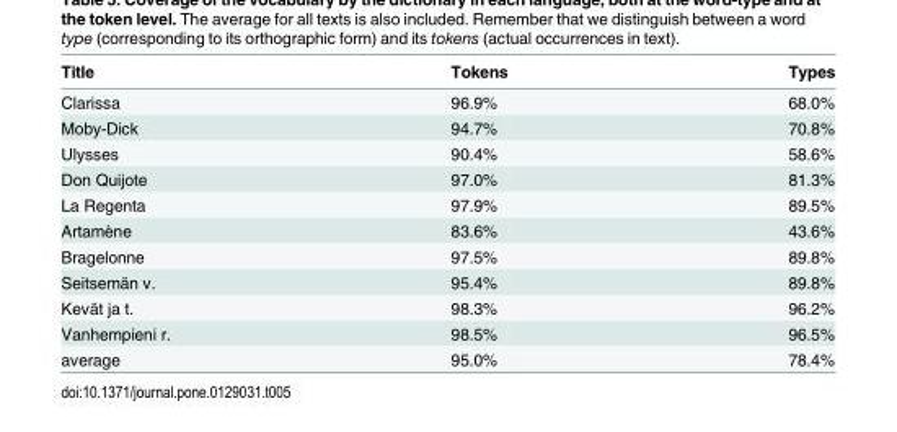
<table><thead><tr><td>Title</td><td>Tokens</td><td>Types</td></tr></thead><tbody><tr><td>Clarissa</td><td>96.9%</td><td>68.0%</td></tr><tr><td>Moby-Dick</td><td>94.7%</td><td>70.8%</td></tr><tr><td>Ulysses</td><td>90.4%</td><td>58.6%</td></tr><tr><td>Don Quijote</td><td>97.0%</td><td>81.3%</td></tr><tr><td>La Regenta</td><td>97.9%</td><td>89.5%</td></tr><tr><td>Artamène</td><td>83.6%</td><td>43.6%</td></tr><tr><td>Bragelonne</td><td>97.5%</td><td>89.8%</td></tr><tr><td>Seitsemän v.</td><td>95.4%</td><td>89.8%</td></tr><tr><td>Kevät ja t.</td><td>98.3%</td><td>96.2%</td></tr><tr><td>Vanhempieni r.</td><td>98.5%</td><td>96.5%</td></tr><tr><td>average</td><td>95.0%</td><td>78.4%</td></tr></tbody></table>